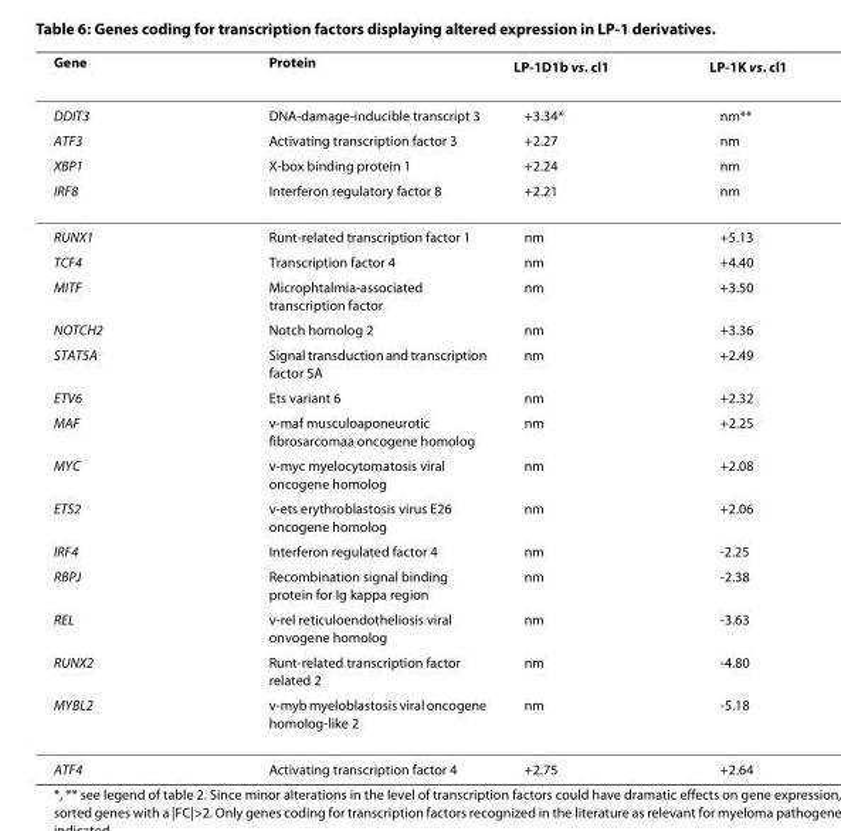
<table><thead><tr><td>Gene</td><td>Protein</td><td>LP-1D1b vs. cl1</td><td>LP-1K vs. cl1</td></tr></thead><tbody><tr><td>DDIT3</td><td>DNA-damage-inducible transcript 3</td><td>+3.34*</td><td>nm**</td></tr><tr><td>ATF3</td><td>Activating transcription factor 3</td><td>+2.27</td><td>nm</td></tr><tr><td>XBP1</td><td>X-box binding protein 1</td><td>+2.24</td><td>nm</td></tr><tr><td>IRF8</td><td>Interferon regulatory factor 8</td><td>+2.21</td><td>nm</td></tr><tr><td>RUNX1</td><td>Runt-related transcription factor 1</td><td>nm</td><td>+5.13</td></tr><tr><td>TCF4</td><td>Transcription factor 4</td><td>nm</td><td>+4.40</td></tr><tr><td>MITF</td><td>Microphtalmia-associated transcription factor</td><td>nm</td><td>+3.50</td></tr><tr><td>NOTCH2</td><td>Notch homolog 2</td><td>nm</td><td>+3.36</td></tr><tr><td>STAT5A</td><td>Signal transduction and transcription factor 5A</td><td>nm</td><td>+2.49</td></tr><tr><td>ETV6</td><td>Ets variant 6</td><td>nm</td><td>+2.32</td></tr><tr><td>MAF</td><td>v-maf musculoaponeurotic fibrosarcomaa oncogene homolog</td><td>nm</td><td>+2.25</td></tr><tr><td>MYC</td><td>v-myc myelocytomatosis viral oncogene homolog</td><td>nm</td><td>+2.08</td></tr><tr><td>ETS2</td><td>v-ets erythroblastosis virus E26 oncogene homolog</td><td>nm</td><td>+2.06</td></tr><tr><td>IRF4</td><td>Interferon regulated factor 4</td><td>nm</td><td>-2.25</td></tr><tr><td>RBPJ</td><td>Recombination signal binding protein for Ig kappa region</td><td>nm</td><td>-2.38</td></tr><tr><td>REL</td><td>v-rel reticuloendotheliosis viral onvogene homolog</td><td>nm</td><td>-3.63</td></tr><tr><td>RUNX2</td><td>Runt-related transcription factor related 2</td><td>nm</td><td>-4.80</td></tr><tr><td>MYBL2</td><td>v-myb myeloblastosis viral oncogene homolog-like 2</td><td>nm</td><td>-5.18</td></tr><tr><td>ATF4</td><td>Activating transcription factor 4</td><td>+2.75</td><td>+2.64</td></tr></tbody></table>